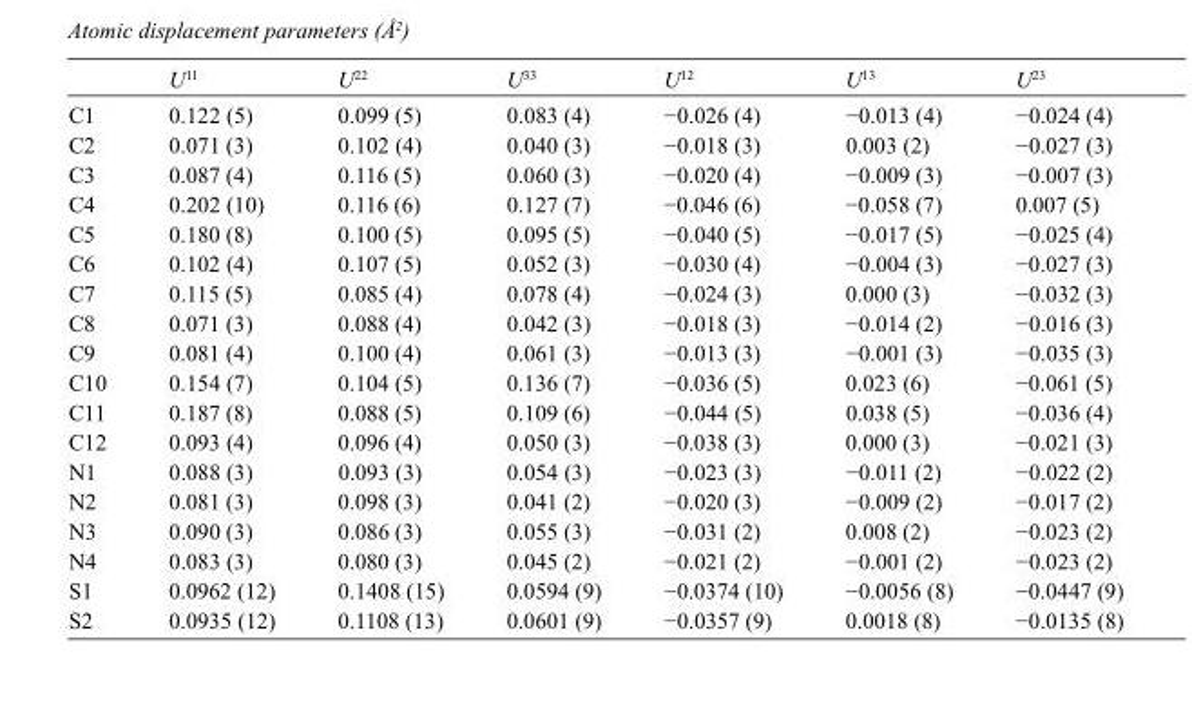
<table><thead><tr><td></td><td>U<sup>11</sup></td><td>U<sup>22</sup></td><td>U<sup>33</sup></td><td>U<sup>12</sup></td><td>U<sup>13</sup></td><td>U<sup>23</sup></td></tr></thead><tbody><tr><td>C1</td><td>0.122 (5)</td><td>0.099 (5)</td><td>0.083 (4)</td><td>−0.026 (4)</td><td>−0.013 (4)</td><td>−0.024 (4)</td></tr><tr><td>C2</td><td>0.071 (3)</td><td>0.102 (4)</td><td>0.040 (3)</td><td>−0.018 (3)</td><td>0.003 (2)</td><td>−0.027 (3)</td></tr><tr><td>C3</td><td>0.087 (4)</td><td>0.116 (5)</td><td>0.060 (3)</td><td>−0.020 (4)</td><td>−0.009 (3)</td><td>−0.007 (3)</td></tr><tr><td>C4</td><td>0.202 (10)</td><td>0.116 (6)</td><td>0.127 (7)</td><td>−0.046 (6)</td><td>−0.058 (7)</td><td>0.007 (5)</td></tr><tr><td>C5</td><td>0.180 (8)</td><td>0.100 (5)</td><td>0.095 (5)</td><td>−0.040 (5)</td><td>−0.017 (5)</td><td>−0.025 (4)</td></tr><tr><td>C6</td><td>0.102 (4)</td><td>0.107 (5)</td><td>0.052 (3)</td><td>−0.030 (4)</td><td>−0.004 (3)</td><td>−0.027 (3)</td></tr><tr><td>C7</td><td>0.115 (5)</td><td>0.085 (4)</td><td>0.078 (4)</td><td>−0.024 (3)</td><td>0.000 (3)</td><td>−0.032 (3)</td></tr><tr><td>C8</td><td>0.071 (3)</td><td>0.088 (4)</td><td>0.042 (3)</td><td>−0.018 (3)</td><td>−0.014 (2)</td><td>−0.016 (3)</td></tr><tr><td>C9</td><td>0.081 (4)</td><td>0.100 (4)</td><td>0.061 (3)</td><td>−0.013 (3)</td><td>−0.001 (3)</td><td>−0.035 (3)</td></tr><tr><td>C10</td><td>0.154 (7)</td><td>0.104 (5)</td><td>0.136 (7)</td><td>−0.036 (5)</td><td>0.023 (6)</td><td>−0.061 (5)</td></tr><tr><td>C11</td><td>0.187 (8)</td><td>0.088 (5)</td><td>0.109 (6)</td><td>−0.044 (5)</td><td>0.038 (5)</td><td>−0.036 (4)</td></tr><tr><td>C12</td><td>0.093 (4)</td><td>0.096 (4)</td><td>0.050 (3)</td><td>−0.038 (3)</td><td>0.000 (3)</td><td>−0.021 (3)</td></tr><tr><td>N1</td><td>0.088 (3)</td><td>0.093 (3)</td><td>0.054 (3)</td><td>−0.023 (3)</td><td>−0.011 (2)</td><td>−0.022 (2)</td></tr><tr><td>N2</td><td>0.081 (3)</td><td>0.098 (3)</td><td>0.041 (2)</td><td>−0.020 (3)</td><td>−0.009 (2)</td><td>−0.017 (2)</td></tr><tr><td>N3</td><td>0.090 (3)</td><td>0.086 (3)</td><td>0.055 (3)</td><td>−0.031 (2)</td><td>0.008 (2)</td><td>−0.023 (2)</td></tr><tr><td>N4</td><td>0.083 (3)</td><td>0.080 (3)</td><td>0.045 (2)</td><td>−0.021 (2)</td><td>−0.001 (2)</td><td>−0.023 (2)</td></tr><tr><td>S1</td><td>0.0962 (12)</td><td>0.1408 (15)</td><td>0.0594 (9)</td><td>−0.0374 (10)</td><td>−0.0056 (8)</td><td>−0.0447 (9)</td></tr><tr><td>S2</td><td>0.0935 (12)</td><td>0.1108 (13)</td><td>0.0601 (9)</td><td>−0.0357 (9)</td><td>0.0018 (8)</td><td>−0.0135 (8)</td></tr></tbody></table>